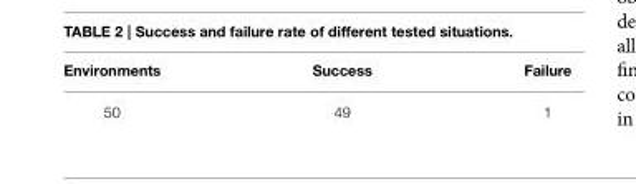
<table><thead><tr><td>Environments</td><td>Success</td><td>Failure</td></tr></thead><tbody><tr><td>50</td><td>49</td><td>1</td></tr></tbody></table>